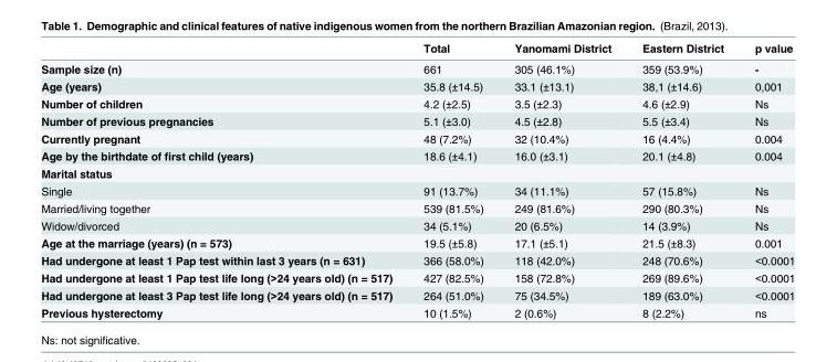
<table><thead><tr><td></td><td>Total</td><td>Yanomami District</td><td>Eastern District</td><td>p value</td></tr></thead><tbody><tr><td>Sample size (n)</td><td>661</td><td>305 (46.1%)</td><td>359 (53.9%)</td><td>-</td></tr><tr><td>Age (years)</td><td>35.8 (±14.5)</td><td>33.1 (±13.1)</td><td>38,1 (±14.6)</td><td>0,001</td></tr><tr><td>Number of children</td><td>4.2 (±2.5)</td><td>3.5 (±2.3)</td><td>4.6 (±2.9)</td><td>Ns</td></tr><tr><td>Number of previous pregnancies</td><td>5.1 (±3.0)</td><td>4.5 (±2.8)</td><td>5.5 (±3.4)</td><td>Ns</td></tr><tr><td>Currently pregnant</td><td>48 (7.2%)</td><td>32 (10.4%)</td><td>16 (4.4%)</td><td>0.004</td></tr><tr><td>Age by the birthdate of first child (years)</td><td>18.6 (±4.1)</td><td>16.0 (±3.1)</td><td>20.1 (±4.8)</td><td>0.004</td></tr><tr><td colspan="5">Marital status</td></tr><tr><td>Single</td><td>91 (13.7%)</td><td>34 (11.1%)</td><td>57 (15.8%)</td><td>Ns</td></tr><tr><td>Married/living together</td><td>539 (81.5%)</td><td>249 (81.6%)</td><td>290 (80.3%)</td><td>Ns</td></tr><tr><td>Widow/divorced</td><td>34 (5.1%)</td><td>20 (6.5%)</td><td>14 (3.9%)</td><td>Ns</td></tr><tr><td>Age at the marriage (years) (n = 573)</td><td>19.5 (±5.8)</td><td>17.1 (±5.1)</td><td>21.5 (±8.3)</td><td>0.001</td></tr><tr><td>Had undergone at least 1 Pap test within last 3 years (n = 631)</td><td>366 (58.0%)</td><td>118 (42.0%)</td><td>248 (70.6%)</td><td>&lt;0.0001</td></tr><tr><td>Had undergone at least 1 Pap test life long (&gt;24 years old) (n = 517)</td><td>427 (82.5%)</td><td>158 (72.8%)</td><td>269 (89.6%)</td><td>&lt;0.0001</td></tr><tr><td>Had undergone at least 3 Pap test life long (&gt;24 years old) (n = 517)</td><td>264 (51.0%)</td><td>75 (34.5%)</td><td>189 (63.0%)</td><td>&lt;0.0001</td></tr><tr><td>Previous hysterectomy</td><td>10 (1.5%)</td><td>2 (0.6%)</td><td>8 (2.2%)</td><td>ns</td></tr></tbody></table>